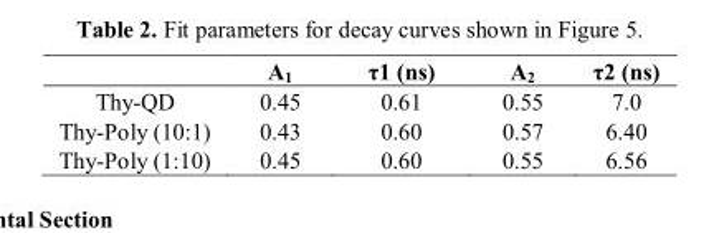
<table><thead><tr><td></td><td>A<sub>1</sub></td><td>τ1 (ns)</td><td>A<sub>2</sub></td><td>τ2 (ns)</td></tr></thead><tbody><tr><td>Thy-QD</td><td>0.45</td><td>0.61</td><td>0.55</td><td>7.0</td></tr><tr><td>Thy-Poly (10:1)</td><td>0.43</td><td>0.60</td><td>0.57</td><td>6.40</td></tr><tr><td>Thy-Poly (1:10)</td><td>0.45</td><td>0.60</td><td>0.55</td><td>6.56</td></tr></tbody></table>